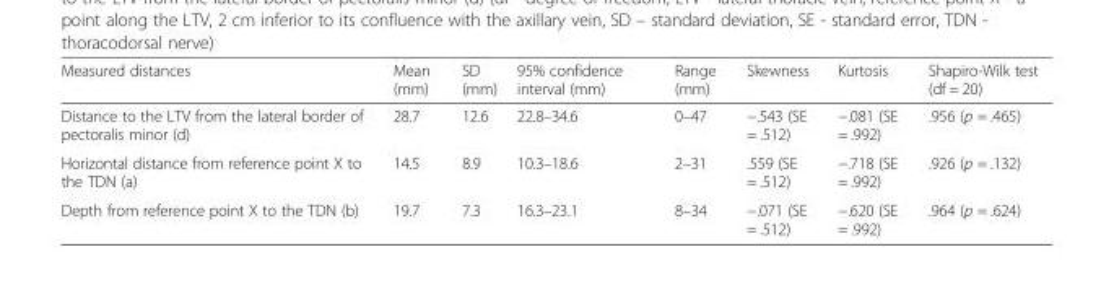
<table><thead><tr><td>Measured distances</td><td>Mean (mm)</td><td>SD (mm)</td><td>95% confidence interval (mm)</td><td>Range (mm)</td><td>Skewness</td><td>Kurtosis</td><td>Shapiro-Wilk test (df = 20)</td></tr></thead><tbody><tr><td>Distance to the LTV from the lateral border of pectoralis minor (d)</td><td>28.7</td><td>12.6</td><td>22.8–34.6</td><td>0–47</td><td>−.543 (SE = .512)</td><td>−.081 (SE = .992)</td><td>.956 (p = .465)</td></tr><tr><td>Horizontal distance from reference point X to the TDN (a)</td><td>14.5</td><td>8.9</td><td>10.3–18.6</td><td>2–31</td><td>.559 (SE = .512)</td><td>−.718 (SE = .992)</td><td>.926 (p = .132)</td></tr><tr><td>Depth from reference point X to the TDN (b)</td><td>19.7</td><td>7.3</td><td>16.3–23.1</td><td>8–34</td><td>−.071 (SE = .512)</td><td>−.620 (SE = .992)</td><td>.964 (p = .624)</td></tr></tbody></table>